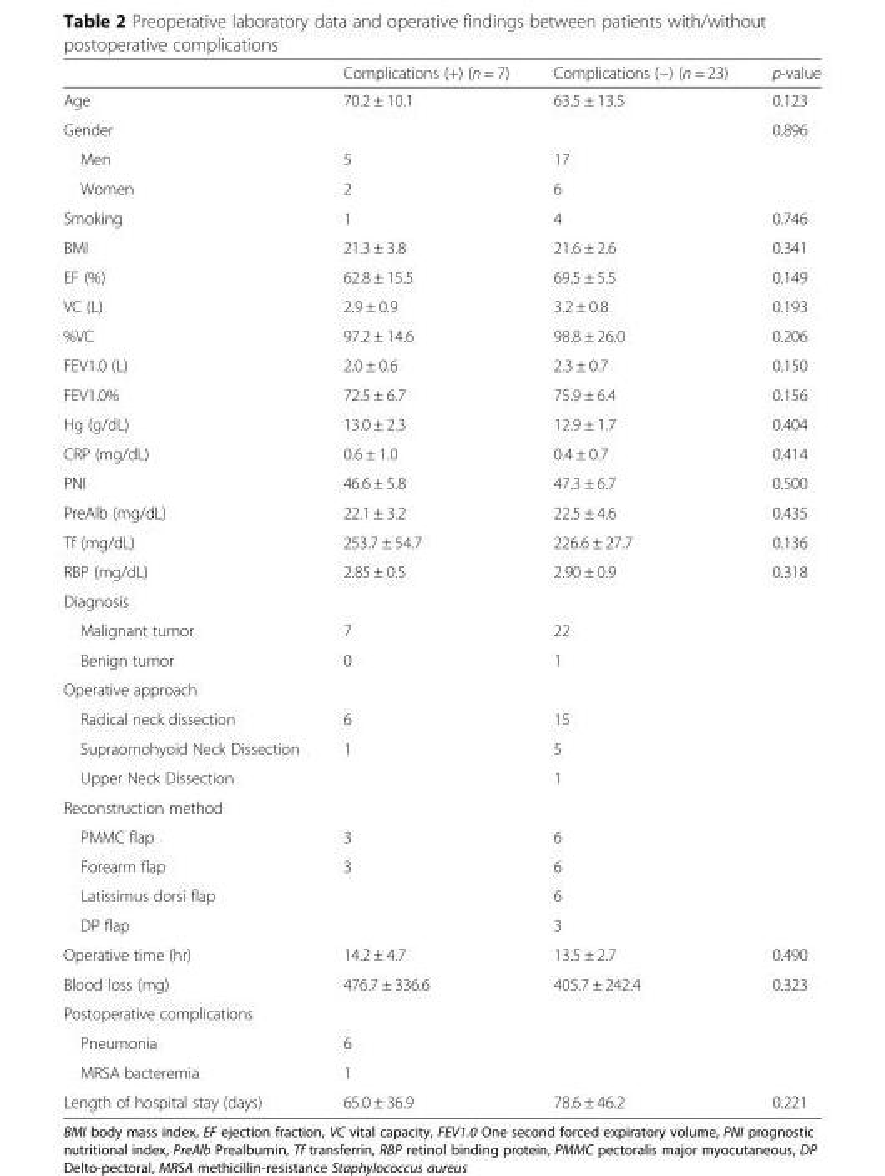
<table><thead><tr><td></td><td>Complications (+) (n = 7)</td><td>Complications (−) (n = 23)</td><td>p-value</td></tr></thead><tbody><tr><td>Age</td><td>70.2 ± 10.1</td><td>63.5 ± 13.5</td><td>0.123</td></tr><tr><td colspan="3">Gender</td><td rowspan="3">0.896</td></tr><tr><td>Men</td><td>5</td><td>17</td></tr><tr><td>Women</td><td>2</td><td>6</td></tr><tr><td>Smoking</td><td>1</td><td>4</td><td>0.746</td></tr><tr><td>BMI</td><td>21.3 ± 3.8</td><td>21.6 ± 2.6</td><td>0.341</td></tr><tr><td>EF (%)</td><td>62.8 ± 15.5</td><td>69.5 ± 5.5</td><td>0.149</td></tr><tr><td>VC (L)</td><td>2.9 ± 0.9</td><td>3.2 ± 0.8</td><td>0.193</td></tr><tr><td>%VC</td><td>97.2 ± 14.6</td><td>98.8 ± 26.0</td><td>0.206</td></tr><tr><td>FEV1.0 (L)</td><td>2.0 ± 0.6</td><td>2.3 ± 0.7</td><td>0.150</td></tr><tr><td>FEV1.0%</td><td>72.5 ± 6.7</td><td>75.9 ± 6.4</td><td>0.156</td></tr><tr><td>Hg (g/dL)</td><td>13.0 ± 2.3</td><td>12.9 ± 1.7</td><td>0.404</td></tr><tr><td>CRP (mg/dL)</td><td>0.6 ± 1.0</td><td>0.4 ± 0.7</td><td>0.414</td></tr><tr><td>PNI</td><td>46.6 ± 5.8</td><td>47.3 ± 6.7</td><td>0.500</td></tr><tr><td>PreAlb (mg/dL)</td><td>22.1 ± 3.2</td><td>22.5 ± 4.6</td><td>0.435</td></tr><tr><td>Tf (mg/dL)</td><td>253.7 ± 54.7</td><td>226.6 ± 27.7</td><td>0.136</td></tr><tr><td>RBP (mg/dL)</td><td>2.85 ± 0.5</td><td>2.90 ± 0.9</td><td>0.318</td></tr><tr><td colspan="4">Diagnosis</td></tr><tr><td>Malignant tumor</td><td>7</td><td>22</td><td></td></tr><tr><td>Benign tumor</td><td>0</td><td>1</td><td></td></tr><tr><td colspan="4">Operative approach</td></tr><tr><td>Radical neck dissection</td><td>6</td><td>15</td><td></td></tr><tr><td>Supraomohyoid Neck Dissection</td><td>1</td><td>5</td><td></td></tr><tr><td>Upper Neck Dissection</td><td></td><td>1</td><td></td></tr><tr><td colspan="4">Reconstruction method</td></tr><tr><td>PMMC flap</td><td>3</td><td>6</td><td></td></tr><tr><td>Forearm flap</td><td>3</td><td>6</td><td></td></tr><tr><td>Latissimus dorsi flap</td><td></td><td>6</td><td></td></tr><tr><td>DP flap</td><td></td><td>3</td><td></td></tr><tr><td>Operative time (hr)</td><td>14.2 ± 4.7</td><td>13.5 ± 2.7</td><td>0.490</td></tr><tr><td>Blood loss (mg)</td><td>476.7 ± 336.6</td><td>405.7 ± 242.4</td><td>0.323</td></tr><tr><td colspan="4">Postoperative complications</td></tr><tr><td>Pneumonia</td><td>6</td><td></td><td></td></tr><tr><td>MRSA bacteremia</td><td>1</td><td></td><td></td></tr><tr><td>Length of hospital stay (days)</td><td>65.0 ± 36.9</td><td>78.6 ± 46.2</td><td>0.221</td></tr></tbody></table>